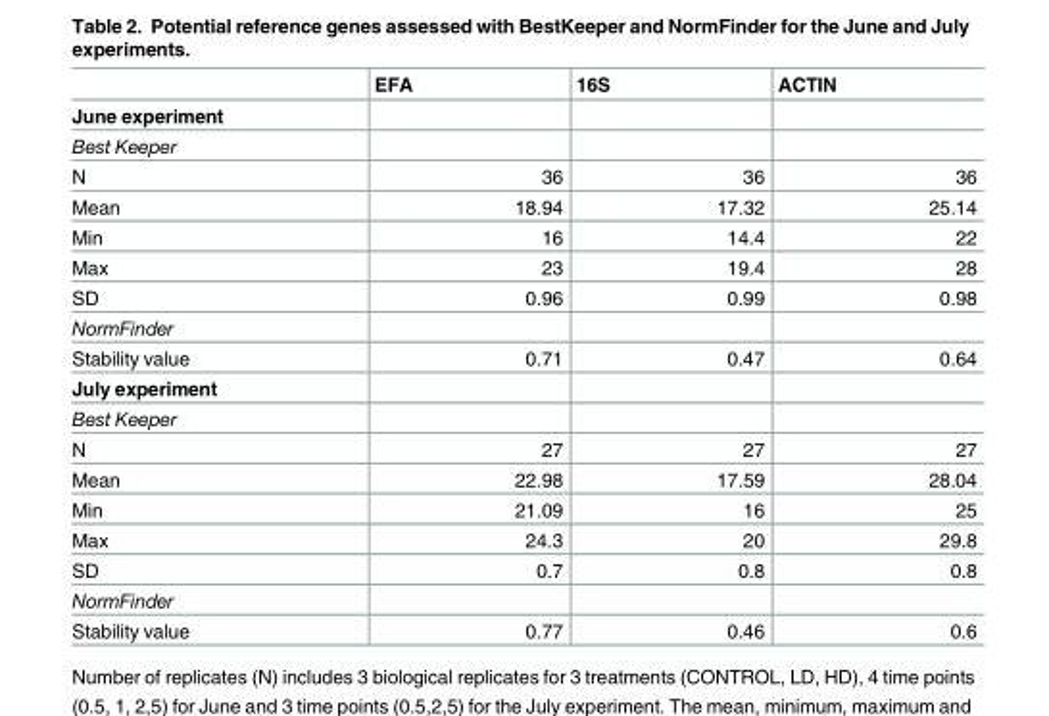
<table><thead><tr><td></td><td>EFA</td><td>16S</td><td>ACTIN</td></tr></thead><tbody><tr><td colspan="4">June experiment</td></tr><tr><td colspan="4">Best Keeper</td></tr><tr><td>N</td><td>36</td><td>36</td><td>36</td></tr><tr><td>Mean</td><td>18.94</td><td>17.32</td><td>25.14</td></tr><tr><td>Min</td><td>16</td><td>14.4</td><td>22</td></tr><tr><td>Max</td><td>23</td><td>19.4</td><td>28</td></tr><tr><td>SD</td><td>0.96</td><td>0.99</td><td>0.98</td></tr><tr><td colspan="4">NormFinder</td></tr><tr><td>Stability value</td><td>0.71</td><td>0.47</td><td>0.64</td></tr><tr><td colspan="4">July experiment</td></tr><tr><td colspan="4">Best Keeper</td></tr><tr><td>N</td><td>27</td><td>27</td><td>27</td></tr><tr><td>Mean</td><td>22.98</td><td>17.59</td><td>28.04</td></tr><tr><td>Min</td><td>21.09</td><td>16</td><td>25</td></tr><tr><td>Max</td><td>24.3</td><td>20</td><td>29.8</td></tr><tr><td>SD</td><td>0.7</td><td>0.8</td><td>0.8</td></tr><tr><td colspan="4">NormFinder</td></tr><tr><td>Stability value</td><td>0.77</td><td>0.46</td><td>0.6</td></tr></tbody></table>